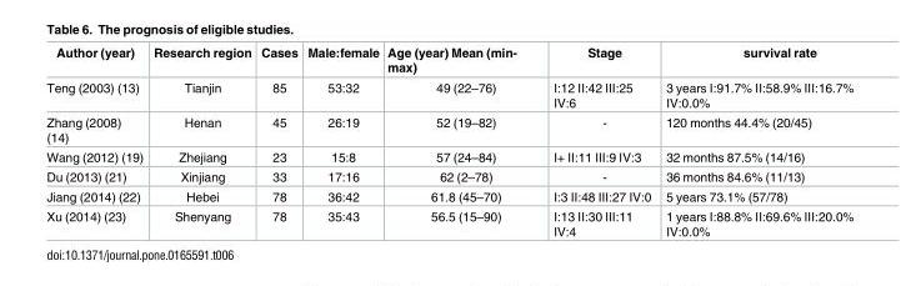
<table><thead><tr><td>Author (year)</td><td>Research region</td><td>Cases</td><td>Male:female</td><td>Age (year) Mean (min- max)</td><td>Stage</td><td>survival rate</td></tr></thead><tbody><tr><td>Teng (2003) (13)</td><td>Tianjin</td><td>85</td><td>53:32</td><td>49 (22–76)</td><td>I:12 II:42 III:25 IV:6</td><td>3 years I:91.7% II:58.9% III:16.7% IV:0.0%</td></tr><tr><td>Zhang (2008) (14)</td><td>Henan</td><td>45</td><td>26:19</td><td>52 (19–82)</td><td>-</td><td>120 months 44.4% (20/45)</td></tr><tr><td>Wang (2012) (19)</td><td>Zhejiang</td><td>23</td><td>15:8</td><td>57 (24–84)</td><td>I+ II:11 III:9 IV:3</td><td>32 months 87.5% (14/16)</td></tr><tr><td>Du (2013) (21)</td><td>Xinjiang</td><td>33</td><td>17:16</td><td>62 (2–78)</td><td>-</td><td>36 months 84.6% (11/13)</td></tr><tr><td>Jiang (2014) (22)</td><td>Hebei</td><td>78</td><td>36:42</td><td>61.8 (45–70)</td><td>I:3 II:48 III:27 IV:0</td><td>5 years 73.1% (57/78)</td></tr><tr><td>Xu (2014) (23)</td><td>Shenyang</td><td>78</td><td>35:43</td><td>56.5 (15–90)</td><td>I:13 II:30 III:11 IV:4</td><td>1 years I:88.8% II:69.6% III:20.0% IV:0.0%</td></tr></tbody></table>